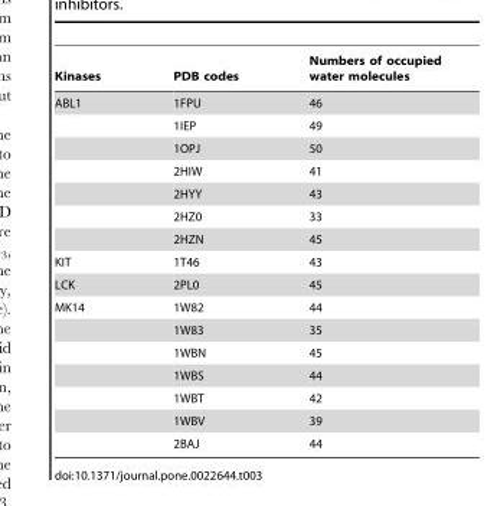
<table><thead><tr><td>Kinases</td><td>PDB codes</td><td>Numbers of occupied water molecules</td></tr></thead><tbody><tr><td rowspan="7">ABL1</td><td>1FPU</td><td>46</td></tr><tr><td>1IEP</td><td>49</td></tr><tr><td>1OPJ</td><td>50</td></tr><tr><td>2HIW</td><td>41</td></tr><tr><td>2HYY</td><td>43</td></tr><tr><td>2HZ0</td><td>33</td></tr><tr><td>2HZN</td><td>45</td></tr><tr><td>KIT</td><td>1T46</td><td>43</td></tr><tr><td>LCK</td><td>2PL0</td><td>45</td></tr><tr><td rowspan="7">MK14</td><td>1W82</td><td>44</td></tr><tr><td>1W83</td><td>35</td></tr><tr><td>1WBN</td><td>45</td></tr><tr><td>1WBS</td><td>44</td></tr><tr><td>1WBT</td><td>42</td></tr><tr><td>1WBV</td><td>39</td></tr><tr><td>2BAJ</td><td>44</td></tr></tbody></table>